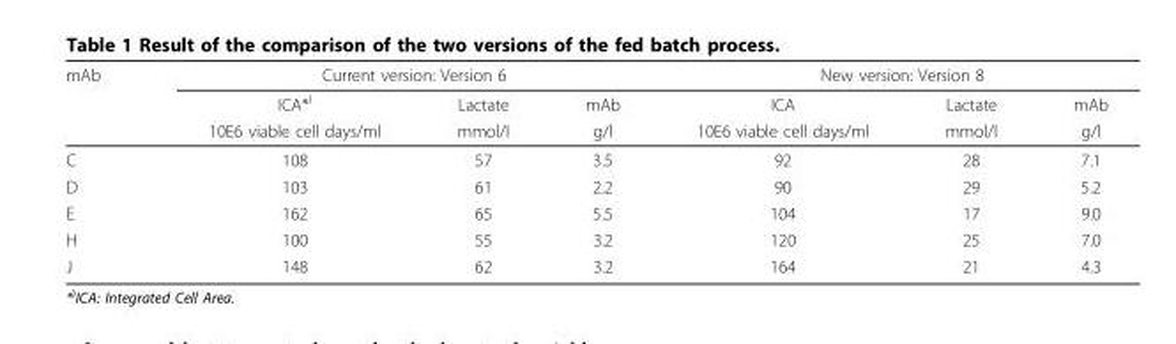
<table><thead><tr><td rowspan="3">mAb</td><td colspan="3">Current version: Version 6</td><td colspan="3">New version: Version 8</td></tr><tr><td rowspan="2">ICA*<sup>)</sup> 10E6 viable cell days/ml</td><td rowspan="2">Lactate mmol/l</td><td rowspan="2">mAb g/l</td><td rowspan="2">ICA 10E6 viable cell days/ml</td><td rowspan="2">Lactate mmol/l</td><td rowspan="2">mAb g/l</td></tr><tr></tr></thead><tbody><tr><td>C</td><td>108</td><td>57</td><td>3.5</td><td>92</td><td>28</td><td>7.1</td></tr><tr><td>D</td><td>103</td><td>61</td><td>2.2</td><td>90</td><td>29</td><td>5.2</td></tr><tr><td>E</td><td>162</td><td>65</td><td>5.5</td><td>104</td><td>17</td><td>9.0</td></tr><tr><td>H</td><td>100</td><td>55</td><td>3.2</td><td>120</td><td>25</td><td>7.0</td></tr><tr><td>J</td><td>148</td><td>62</td><td>3.2</td><td>164</td><td>21</td><td>4.3</td></tr></tbody></table>